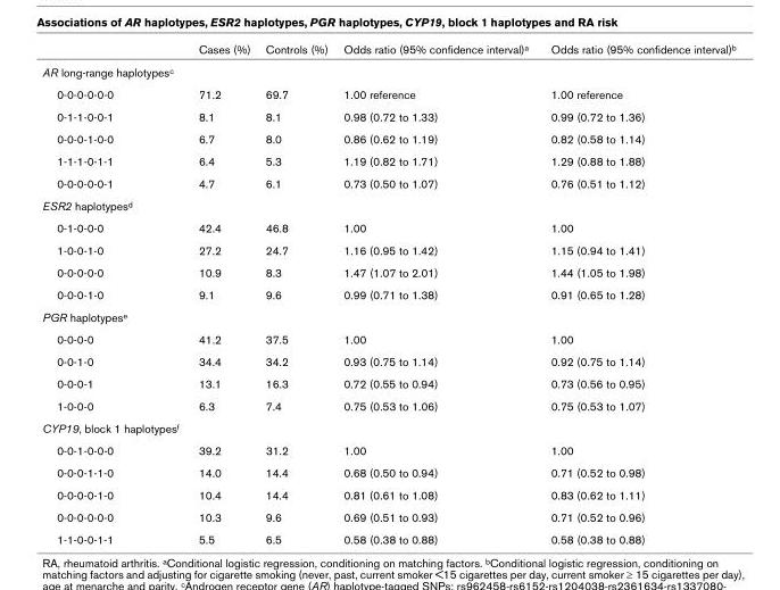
<table><thead><tr><td></td><td>Cases (%)</td><td>Controls (%)</td><td>Odds ratio (95% confidence interval)<sup>a</sup></td><td>Odds ratio (95% confidence interval)<sup>b</sup></td></tr></thead><tbody><tr><td colspan="5">AR long-range haplotypes<sup>c</sup></td></tr><tr><td>0-0-0-0-0-0</td><td>71.2</td><td>69.7</td><td>1.00 reference</td><td>1.00 reference</td></tr><tr><td>0-1-1-0-0-1</td><td>8.1</td><td>8.1</td><td>0.98 (0.72 to 1.33)</td><td>0.99 (0.72 to 1.36)</td></tr><tr><td>0-0-0-1-0-0</td><td>6.7</td><td>8.0</td><td>0.86 (0.62 to 1.19)</td><td>0.82 (0.58 to 1.14)</td></tr><tr><td>1-1-1-0-1-1</td><td>6.4</td><td>5.3</td><td>1.19 (0.82 to 1.71)</td><td>1.29 (0.88 to 1.88)</td></tr><tr><td>0-0-0-0-0-1</td><td>4.7</td><td>6.1</td><td>0.73 (0.50 to 1.07)</td><td>0.76 (0.51 to 1.12)</td></tr><tr><td colspan="5">ESR2 haplotypes<sup>d</sup></td></tr><tr><td>0-1-0-0-0</td><td>42.4</td><td>46.8</td><td>1.00</td><td>1.00</td></tr><tr><td>1-0-0-1-0</td><td>27.2</td><td>24.7</td><td>1.16 (0.95 to 1.42)</td><td>1.15 (0.94 to 1.41)</td></tr><tr><td>0-0-0-0-0</td><td>10.9</td><td>8.3</td><td>1.47 (1.07 to 2.01)</td><td>1.44 (1.05 to 1.98)</td></tr><tr><td>0-0-0-1-0</td><td>9.1</td><td>9.6</td><td>0.99 (0.71 to 1.38)</td><td>0.91 (0.65 to 1.28)</td></tr><tr><td colspan="5">PGR haplotypes<sup>e</sup></td></tr><tr><td>0-0-0-0</td><td>41.2</td><td>37.5</td><td>1.00</td><td>1.00</td></tr><tr><td>0-0-1-0</td><td>34.4</td><td>34.2</td><td>0.93 (0.75 to 1.14)</td><td>0.92 (0.75 to 1.14)</td></tr><tr><td>0-0-0-1</td><td>13.1</td><td>16.3</td><td>0.72 (0.55 to 0.94)</td><td>0.73 (0.56 to 0.95)</td></tr><tr><td>1-0-0-0</td><td>6.3</td><td>7.4</td><td>0.75 (0.53 to 1.06)</td><td>0.75 (0.53 to 1.07)</td></tr><tr><td colspan="5">CYP19, block 1 haplotypes<sup>f</sup></td></tr><tr><td>0-0-1-0-0-0</td><td>39.2</td><td>31.2</td><td>1.00</td><td>1.00</td></tr><tr><td>0-0-0-1-1-0</td><td>14.0</td><td>14.4</td><td>0.68 (0.50 to 0.94)</td><td>0.71 (0.52 to 0.98)</td></tr><tr><td>0-0-0-0-1-0</td><td>10.4</td><td>14.4</td><td>0.81 (0.61 to 1.08)</td><td>0.83 (0.62 to 1.11)</td></tr><tr><td>0-0-0-0-0-0</td><td>10.3</td><td>9.6</td><td>0.69 (0.51 to 0.93)</td><td>0.71 (0.52 to 0.96)</td></tr><tr><td>1-1-0-0-1-1</td><td>5.5</td><td>6.5</td><td>0.58 (0.38 to 0.88)</td><td>0.58 (0.38 to 0.88)</td></tr></tbody></table>